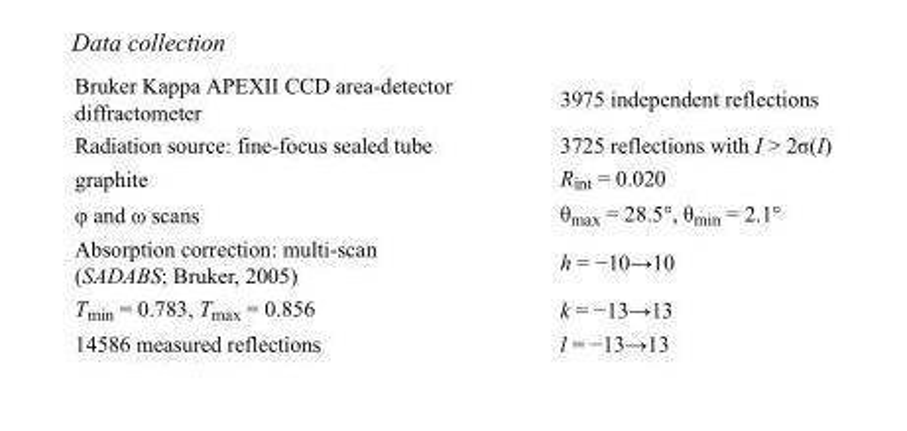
<table><tbody><tr><td>Bruker Kappa APEXII CCD area-detector diffractometer</td><td>3975 independent reflections</td></tr><tr><td>Radiation source: fine-focus sealed tube</td><td>3725 reflections with I &gt; 2σ(I)</td></tr><tr><td>graphite</td><td>R<sub>int</sub> = 0.020</td></tr><tr><td>φ and ω scans</td><td>θ<sub>max</sub> = 28.5°, θ<sub>min</sub> = 2.1°</td></tr><tr><td>Absorption correction: multi-scan (SADABS; Bruker, 2005)</td><td>h = −10→10</td></tr><tr><td>T<sub>min</sub> = 0.783, T<sub>max</sub> = 0.856</td><td>k = −13→13</td></tr><tr><td>14586 measured reflections</td><td>l = −13→13</td></tr></tbody></table>